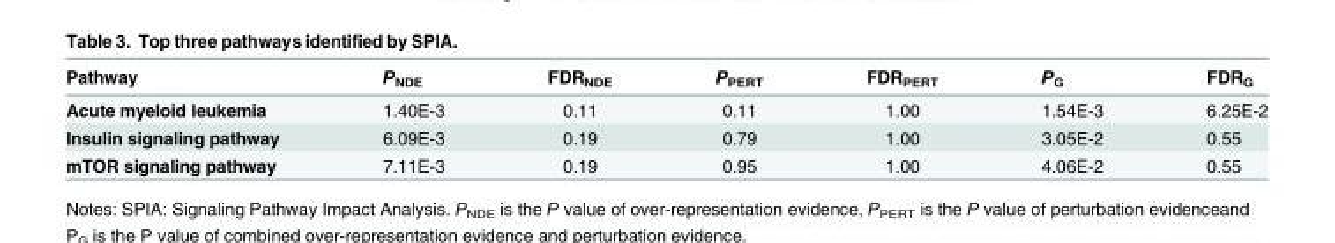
<table><thead><tr><td>Pathway</td><td>P<sub>NDE</sub></td><td>FDR<sub>NDE</sub></td><td>P<sub>PERT</sub></td><td>FDR<sub>PERT</sub></td><td>P<sub>G</sub></td><td>FDR<sub>G</sub></td></tr></thead><tbody><tr><td>Acute myeloid leukemia</td><td>1.40E-3</td><td>0.11</td><td>0.11</td><td>1.00</td><td>1.54E-3</td><td>6.25E-2</td></tr><tr><td>Insulin signaling pathway</td><td>6.09E-3</td><td>0.19</td><td>0.79</td><td>1.00</td><td>3.05E-2</td><td>0.55</td></tr><tr><td>mTOR signaling pathway</td><td>7.11E-3</td><td>0.19</td><td>0.95</td><td>1.00</td><td>4.06E-2</td><td>0.55</td></tr></tbody></table>